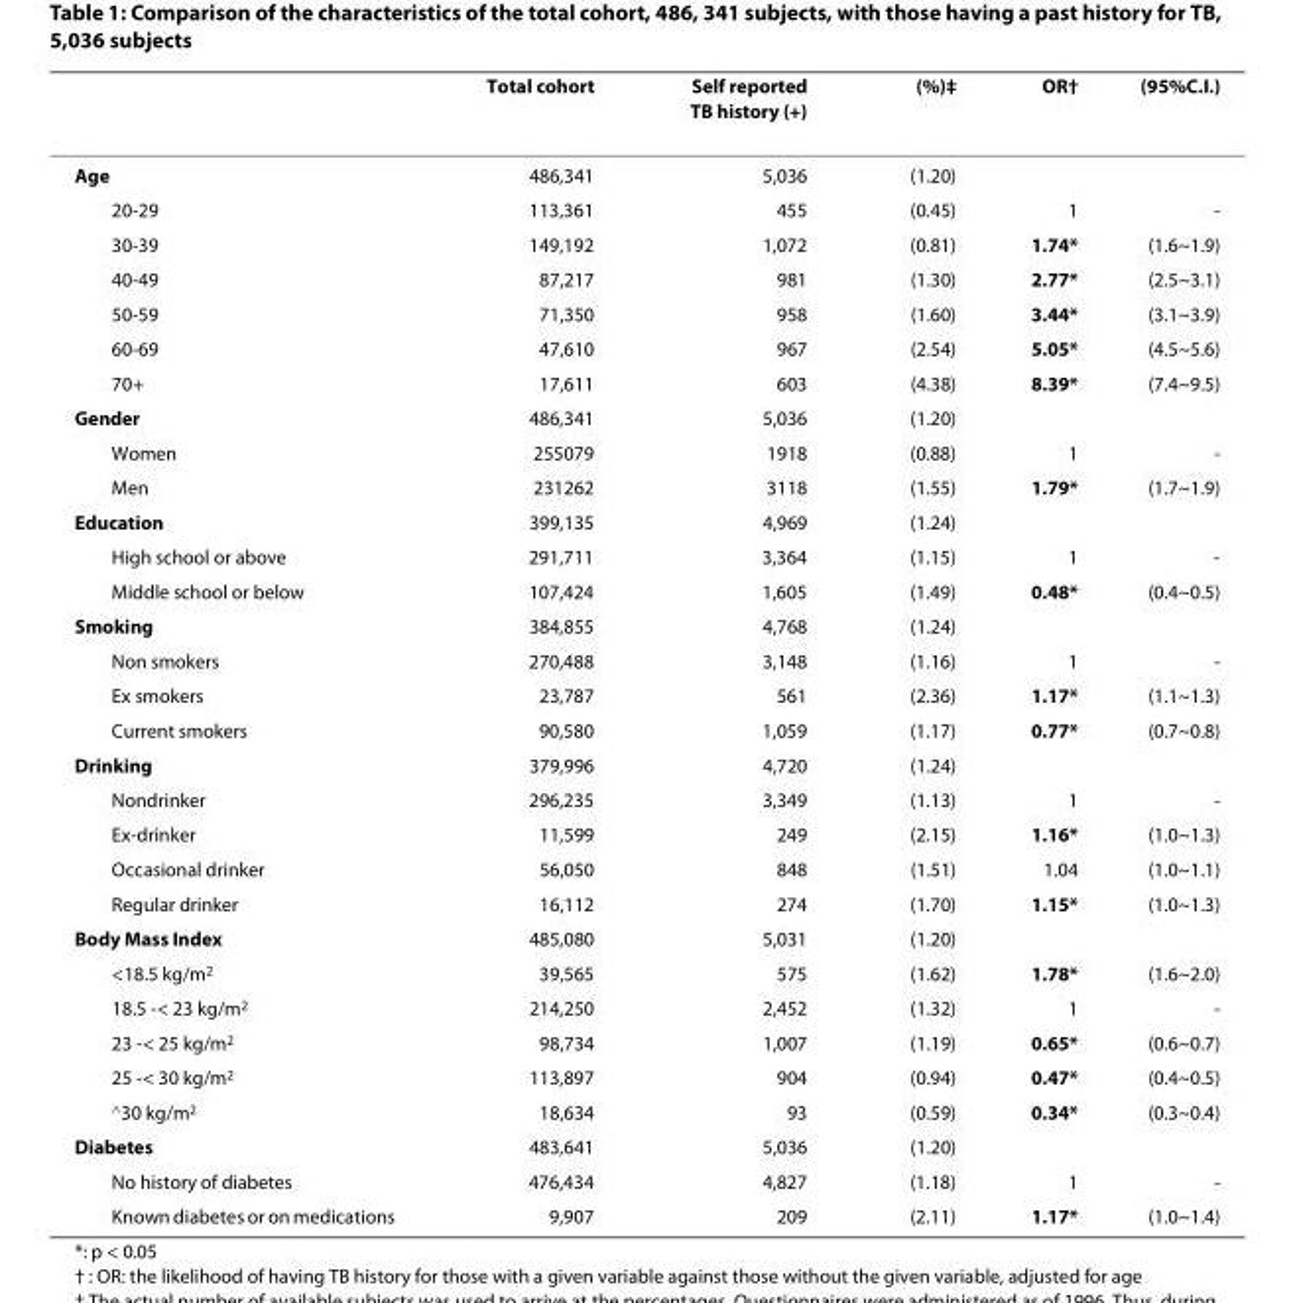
<table><thead><tr><td></td><td>Total cohort</td><td>Self reported TB history (+)</td><td>(%)‡</td><td>OR†</td><td>(95%C.I.)</td></tr></thead><tbody><tr><td>Age</td><td>486,341</td><td>5,036</td><td>(1.20)</td><td></td><td></td></tr><tr><td>20-29</td><td>113,361</td><td>455</td><td>(0.45)</td><td>1</td><td>-</td></tr><tr><td>30-39</td><td>149,192</td><td>1,072</td><td>(0.81)</td><td>1.74*</td><td>(1.6~1.9)</td></tr><tr><td>40-49</td><td>87,217</td><td>981</td><td>(1.30)</td><td>2.77*</td><td>(2.5~3.1)</td></tr><tr><td>50-59</td><td>71,350</td><td>958</td><td>(1.60)</td><td>3.44*</td><td>(3.1~3.9)</td></tr><tr><td>60-69</td><td>47,610</td><td>967</td><td>(2.54)</td><td>5.05*</td><td>(4.5~5.6)</td></tr><tr><td>70+</td><td>17,611</td><td>603</td><td>(4.38)</td><td>8.39*</td><td>(7.4~9.5)</td></tr><tr><td>Gender</td><td>486,341</td><td>5,036</td><td>(1.20)</td><td></td><td></td></tr><tr><td>Women</td><td>255079</td><td>1918</td><td>(0.88)</td><td>1</td><td>-</td></tr><tr><td>Men</td><td>231262</td><td>3118</td><td>(1.55)</td><td>1.79*</td><td>(1.7~1.9)</td></tr><tr><td>Education</td><td>399,135</td><td>4,969</td><td>(1.24)</td><td></td><td></td></tr><tr><td>High school or above</td><td>291,711</td><td>3,364</td><td>(1.15)</td><td>1</td><td>-</td></tr><tr><td>Middle school or below</td><td>107,424</td><td>1,605</td><td>(1.49)</td><td>0.48*</td><td>(0.4~0.5)</td></tr><tr><td>Smoking</td><td>384,855</td><td>4,768</td><td>(1.24)</td><td></td><td></td></tr><tr><td>Non smokers</td><td>270,488</td><td>3,148</td><td>(1.16)</td><td>1</td><td>-</td></tr><tr><td>Ex smokers</td><td>23,787</td><td>561</td><td>(2.36)</td><td>1.17*</td><td>(1.1~1.3)</td></tr><tr><td>Current smokers</td><td>90,580</td><td>1,059</td><td>(1.17)</td><td>0.77*</td><td>(0.7~0.8)</td></tr><tr><td>Drinking</td><td>379,996</td><td>4,720</td><td>(1.24)</td><td></td><td></td></tr><tr><td>Nondrinker</td><td>296,235</td><td>3,349</td><td>(1.13)</td><td>1</td><td>-</td></tr><tr><td>Ex-drinker</td><td>11,599</td><td>249</td><td>(2.15)</td><td>1.16*</td><td>(1.0~1.3)</td></tr><tr><td>Occasional drinker</td><td>56,050</td><td>848</td><td>(1.51)</td><td>1.04</td><td>(1.0~1.1)</td></tr><tr><td>Regular drinker</td><td>16,112</td><td>274</td><td>(1.70)</td><td>1.15*</td><td>(1.0~1.3)</td></tr><tr><td>Body Mass Index</td><td>485,080</td><td>5,031</td><td>(1.20)</td><td></td><td></td></tr><tr><td>&lt;18.5 kg/m<sup>2</sup></td><td>39,565</td><td>575</td><td>(1.62)</td><td>1.78*</td><td>(1.6~2.0)</td></tr><tr><td>18.5 -&lt; 23 kg/m<sup>2</sup></td><td>214,250</td><td>2,452</td><td>(1.32)</td><td>1</td><td>-</td></tr><tr><td>23 -&lt; 25 kg/m<sup>2</sup></td><td>98,734</td><td>1,007</td><td>(1.19)</td><td>0.65*</td><td>(0.6~0.7)</td></tr><tr><td>25 -&lt; 30 kg/m<sup>2</sup></td><td>113,897</td><td>904</td><td>(0.94)</td><td>0.47*</td><td>(0.4~0.5)</td></tr><tr><td>≧30 kg/m<sup>2</sup></td><td>18,634</td><td>93</td><td>(0.59)</td><td>0.34*</td><td>(0.3~0.4)</td></tr><tr><td>Diabetes</td><td>483,641</td><td>5,036</td><td>(1.20)</td><td></td><td></td></tr><tr><td>No history of diabetes</td><td>476,434</td><td>4,827</td><td>(1.18)</td><td>1</td><td>-</td></tr><tr><td>Known diabetes or on medications</td><td>9,907</td><td>209</td><td>(2.11)</td><td>1.17*</td><td>(1.0~1.4)</td></tr></tbody></table>